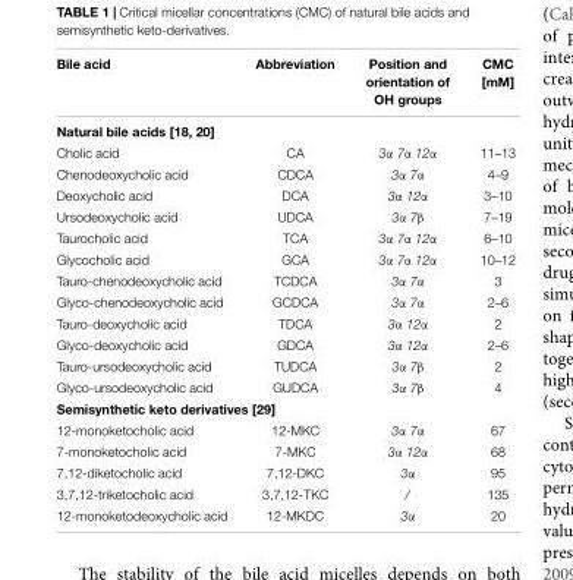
<table><thead><tr><td>Bile acid</td><td>Abbreviation</td><td>Position and orientation of OH groups</td><td>CMC [mM]</td></tr></thead><tbody><tr><td colspan="4">Natural bile acids [18, 20]</td></tr><tr><td>Cholic acid</td><td>CA</td><td>3α 7α 12α</td><td>11–13</td></tr><tr><td>Chenodeoxycholic acid</td><td>CDCA</td><td>3α 7α</td><td>4–9</td></tr><tr><td>Deoxycholic acid</td><td>DCA</td><td>3α 12α</td><td>3–10</td></tr><tr><td>Ursodeoxycholic acid</td><td>UDCA</td><td>3α 7β</td><td>7–19</td></tr><tr><td>Taurocholic acid</td><td>TCA</td><td>3α 7α 12α</td><td>6–10</td></tr><tr><td>Glycocholic acid</td><td>GCA</td><td>3α 7α 12α</td><td>10–12</td></tr><tr><td>Tauro-chenodeoxycholic acid</td><td>TCDCA</td><td>3α 7α</td><td>3</td></tr><tr><td>Glyco-chenodeoxycholic acid</td><td>GCDCA</td><td>3α 7α</td><td>2–6</td></tr><tr><td>Tauro-deoxycholic acid</td><td>TDCA</td><td>3α 12α</td><td>2</td></tr><tr><td>Glyco-deoxycholic acid</td><td>GDCA</td><td>3α 12α</td><td>2–6</td></tr><tr><td>Tauro-ursodeoxycholic acid</td><td>TUDCA</td><td>3α 7β</td><td>2</td></tr><tr><td>Glyco-ursodeoxycholic acid</td><td>GUDCA</td><td>3α 7β</td><td>4</td></tr><tr><td colspan="4">Semisynthetic keto derivatives [29]</td></tr><tr><td>12-monoketocholic acid</td><td>12-MKC</td><td>3α 7α</td><td>67</td></tr><tr><td>7-monoketocholic acid</td><td>7-MKC</td><td>3α 12α</td><td>68</td></tr><tr><td>7,12-diketocholic acid</td><td>7,12-DKC</td><td>3α</td><td>95</td></tr><tr><td>3,7,12-triketocholic acid</td><td>3,7,12-TKC</td><td>/</td><td>135</td></tr><tr><td>12-monoketodeoxycholic acid</td><td>12-MKDC</td><td>3α</td><td>20</td></tr></tbody></table>